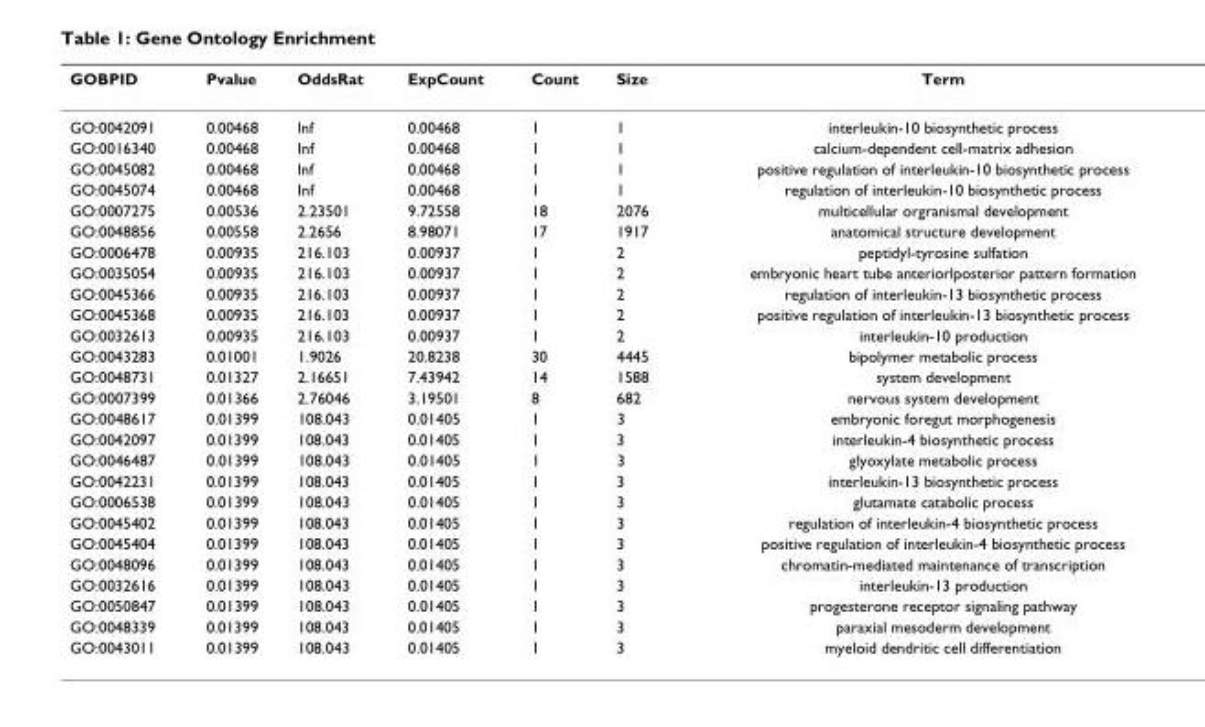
<table><thead><tr><td>GOBPID</td><td>Pvalue</td><td>OddsRat</td><td>ExpCount</td><td>Count</td><td>Size</td><td>Term</td></tr></thead><tbody><tr><td>GO:0042091</td><td>0.00468</td><td>lnf</td><td>0.00468</td><td>1</td><td>1</td><td>interleukin-10 biosynthetic process</td></tr><tr><td>GO:0016340</td><td>0.00468</td><td>Inf</td><td>0.00468</td><td>1</td><td>1</td><td>calcium-dependent cell-matrix adhesion</td></tr><tr><td>GO:0045082</td><td>0.00468</td><td>lnf</td><td>0.00468</td><td>1</td><td>1</td><td>positive regulation of interleukin-10 biosynthetic process</td></tr><tr><td>GO:0045074</td><td>0.00468</td><td>Inf</td><td>0.00468</td><td>1</td><td>1</td><td>regulation of interleukin-10 biosynthetic process</td></tr><tr><td>GO:0007275</td><td>0.00536</td><td>2.23501</td><td>9.72558</td><td>18</td><td>2076</td><td>multicellular orgranismal development</td></tr><tr><td>GO:0048856</td><td>0.00558</td><td>2.2656</td><td>8.98071</td><td>17</td><td>1917</td><td>anatomical structure development</td></tr><tr><td>GO:0006478</td><td>0.00935</td><td>216.103</td><td>0.00937</td><td>1</td><td>2</td><td>peptidyl-tyrosine sulfation</td></tr><tr><td>GO:0035054</td><td>0.00935</td><td>216.103</td><td>0.00937</td><td>1</td><td>2</td><td>embryonic heart tube anteriorlposterior pattern formation</td></tr><tr><td>GO:0045366</td><td>0.00935</td><td>216.103</td><td>0.00937</td><td>1</td><td>2</td><td>regulation of interleukin-13 biosynthetic process</td></tr><tr><td>GO:0045368</td><td>0.00935</td><td>216.103</td><td>0.00937</td><td>1</td><td>2</td><td>positive regulation of interleukin-13 biosynthetic process</td></tr><tr><td>GO:0032613</td><td>0.00935</td><td>216.103</td><td>0.00937</td><td>1</td><td>2</td><td>interleukin-10 production</td></tr><tr><td>GO:0043283</td><td>0.01001</td><td>1.9026</td><td>20.8238</td><td>30</td><td>4445</td><td>bipolymer metabolic process</td></tr><tr><td>GO:0048731</td><td>0.01327</td><td>2.16651</td><td>7.43942</td><td>14</td><td>1588</td><td>system development</td></tr><tr><td>GO:0007399</td><td>0.01366</td><td>2.76046</td><td>3.19501</td><td>8</td><td>682</td><td>nervous system development</td></tr><tr><td>GO:0048617</td><td>0.01399</td><td>108.043</td><td>0.01405</td><td>1</td><td>3</td><td>embryonic foregut morphogenesis</td></tr><tr><td>GO:0042097</td><td>0.01399</td><td>108.043</td><td>0.01405</td><td>1</td><td>3</td><td>interleukin-4 biosynthetic process</td></tr><tr><td>GO:0046487</td><td>0.01399</td><td>108.043</td><td>0.01405</td><td>1</td><td>3</td><td>glyoxylate metabolic process</td></tr><tr><td>GO:0042231</td><td>0.01399</td><td>108.043</td><td>0.01405</td><td>1</td><td>3</td><td>interleukin-13 biosynthetic process</td></tr><tr><td>GO:0006538</td><td>0.01399</td><td>108.043</td><td>0.01405</td><td>1</td><td>3</td><td>glutamate catabolic process</td></tr><tr><td>GO:0045402</td><td>0.01399</td><td>108.043</td><td>0.01405</td><td>1</td><td>3</td><td>regulation of interleukin-4 biosynthetic process</td></tr><tr><td>GO:0045404</td><td>0.01399</td><td>108.043</td><td>0.01405</td><td>1</td><td>3</td><td>positive regulation of interleukin-4 biosynthetic process</td></tr><tr><td>GO:0048096</td><td>0.01399</td><td>108.043</td><td>0.01405</td><td>1</td><td>3</td><td>chromatin-mediated maintenance of transcription</td></tr><tr><td>GO:0032616</td><td>0.01399</td><td>108.043</td><td>0.01405</td><td>1</td><td>3</td><td>interleukin-13 production</td></tr><tr><td>GO:0050847</td><td>0.01399</td><td>108.043</td><td>0.01405</td><td>1</td><td>3</td><td>progesterone receptor signaling pathway</td></tr><tr><td>GO:0048339</td><td>0.01399</td><td>108.043</td><td>0.01405</td><td>1</td><td>3</td><td>paraxial mesoderm development</td></tr><tr><td>GO:0043011</td><td>0.01399</td><td>108.043</td><td>0.01405</td><td>1</td><td>3</td><td>myeloid dendritic cell differentiation</td></tr></tbody></table>